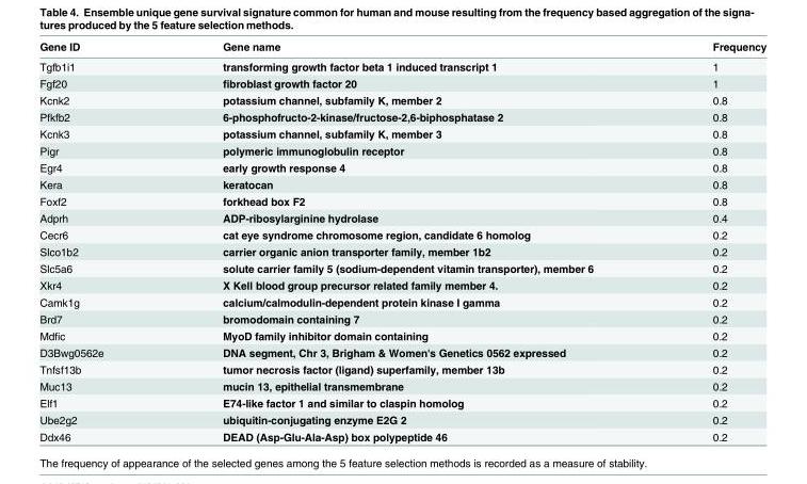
<table><thead><tr><td>Gene ID</td><td>Gene name</td><td>Frequency</td></tr></thead><tbody><tr><td>Tgfb1i1</td><td>transforming growth factor beta 1 induced transcript 1</td><td>1</td></tr><tr><td>Fgf20</td><td>fibroblast growth factor 20</td><td>1</td></tr><tr><td>Kcnk2</td><td>potassium channel, subfamily K, member 2</td><td>0.8</td></tr><tr><td>Pfkfb2</td><td>6-phosphofructo-2-kinase/fructose-2,6-biphosphatase 2</td><td>0.8</td></tr><tr><td>Kcnk3</td><td>potassium channel, subfamily K, member 3</td><td>0.8</td></tr><tr><td>Pigr</td><td>polymeric immunoglobulin receptor</td><td>0.8</td></tr><tr><td>Egr4</td><td>early growth response 4</td><td>0.8</td></tr><tr><td>Kera</td><td>keratocan</td><td>0.8</td></tr><tr><td>Foxf2</td><td>forkhead box F2</td><td>0.8</td></tr><tr><td>Adprh</td><td>ADP-ribosylarginine hydrolase</td><td>0.4</td></tr><tr><td>Cecr6</td><td>cat eye syndrome chromosome region, candidate 6 homolog</td><td>0.2</td></tr><tr><td>Slco1b2</td><td>carrier organic anion transporter family, member 1b2</td><td>0.2</td></tr><tr><td>Slc5a6</td><td>solute carrier family 5 (sodium-dependent vitamin transporter), member 6</td><td>0.2</td></tr><tr><td>Xkr4</td><td>X Kell blood group precursor related family member 4.</td><td>0.2</td></tr><tr><td>Camk1g</td><td>calcium/calmodulin-dependent protein kinase I gamma</td><td>0.2</td></tr><tr><td>Brd7</td><td>bromodomain containing 7</td><td>0.2</td></tr><tr><td>Mdfic</td><td>MyoD family inhibitor domain containing</td><td>0.2</td></tr><tr><td>D3Bwg0562e</td><td>DNA segment, Chr 3, Brigham &amp; Women&#x27;s Genetics 0562 expressed</td><td>0.2</td></tr><tr><td>Tnfsf13b</td><td>tumor necrosis factor (ligand) superfamily, member 13b</td><td>0.2</td></tr><tr><td>Muc13</td><td>mucin 13, epithelial transmembrane</td><td>0.2</td></tr><tr><td>Elf1</td><td>E74-like factor 1 and similar to claspin homolog</td><td>0.2</td></tr><tr><td>Ube2g2</td><td>ubiquitin-conjugating enzyme E2G 2</td><td>0.2</td></tr><tr><td>Ddx46</td><td>DEAD (Asp-Glu-Ala-Asp) box polypeptide 46</td><td>0.2</td></tr></tbody></table>